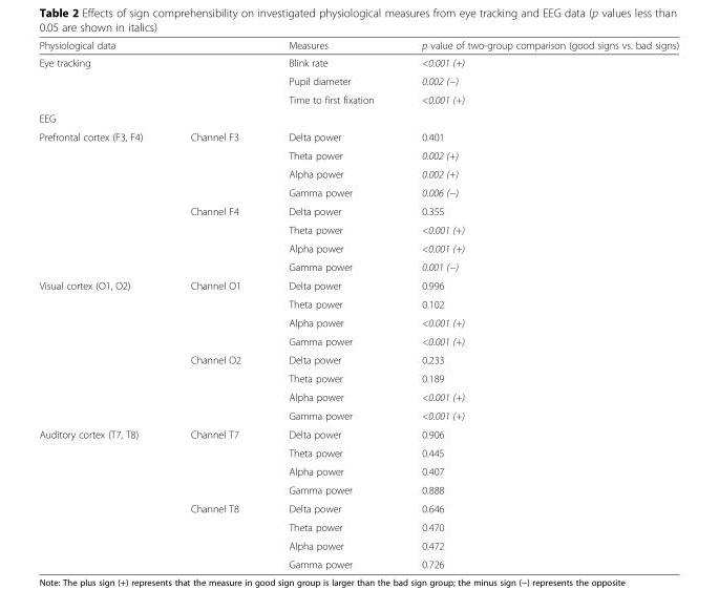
<table><thead><tr><td colspan="2">Physiological data</td><td>Measures</td><td>p value of two-group comparison (good signs vs. bad signs)</td></tr></thead><tbody><tr><td rowspan="3" colspan="2">Eye tracking</td><td>Blink rate</td><td>&lt;0.001 (+)</td></tr><tr><td>Pupil diameter</td><td>0.002 (−)</td></tr><tr><td>Time to first fixation</td><td>&lt;0.001 (+)</td></tr><tr><td colspan="4">EEG</td></tr><tr><td rowspan="8">Prefrontal cortex (F3, F4)</td><td rowspan="4">Channel F3</td><td>Delta power</td><td>0.401</td></tr><tr><td>Theta power</td><td>0.002 (+)</td></tr><tr><td>Alpha power</td><td>0.002 (+)</td></tr><tr><td>Gamma power</td><td>0.006 (−)</td></tr><tr><td rowspan="4">Channel F4</td><td>Delta power</td><td>0.355</td></tr><tr><td>Theta power</td><td>&lt;0.001 (+)</td></tr><tr><td>Alpha power</td><td>&lt;0.001 (+)</td></tr><tr><td>Gamma power</td><td>0.001 (−)</td></tr><tr><td rowspan="8">Visual cortex (O1, O2)</td><td rowspan="4">Channel O1</td><td>Delta power</td><td>0.996</td></tr><tr><td>Theta power</td><td>0.102</td></tr><tr><td>Alpha power</td><td>&lt;0.001 (+)</td></tr><tr><td>Gamma power</td><td>&lt;0.001 (+)</td></tr><tr><td rowspan="4">Channel O2</td><td>Delta power</td><td>0.233</td></tr><tr><td>Theta power</td><td>0.189</td></tr><tr><td>Alpha power</td><td>&lt;0.001 (+)</td></tr><tr><td>Gamma power</td><td>&lt;0.001 (+)</td></tr><tr><td rowspan="8">Auditory cortex (T7, T8)</td><td rowspan="4">Channel T7</td><td>Delta power</td><td>0.906</td></tr><tr><td>Theta power</td><td>0.445</td></tr><tr><td>Alpha power</td><td>0.407</td></tr><tr><td>Gamma power</td><td>0.888</td></tr><tr><td rowspan="4">Channel T8</td><td>Delta power</td><td>0.646</td></tr><tr><td>Theta power</td><td>0.470</td></tr><tr><td>Alpha power</td><td>0.472</td></tr><tr><td>Gamma power</td><td>0.726</td></tr></tbody></table>